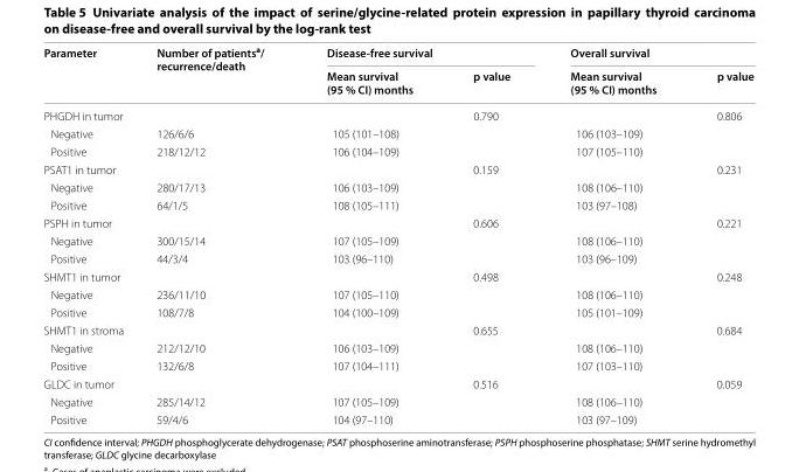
<table><thead><tr><td rowspan="2">Parameter</td><td rowspan="2">Number of patients<sup>a</sup>/ recurrence/death</td><td colspan="2">Disease‑free survival</td><td colspan="2">Overall survival</td></tr><tr><td>Mean survival (95 % CI) months</td><td>p value</td><td>Mean survival (95 % CI) months</td><td>p value</td></tr></thead><tbody><tr><td colspan="3">PHGDH in tumor</td><td>0.790</td><td></td><td>0.806</td></tr><tr><td>Negative</td><td>126/6/6</td><td>105 (101–108)</td><td></td><td>106 (103–109)</td><td></td></tr><tr><td>Positive</td><td>218/12/12</td><td>106 (104–109)</td><td></td><td>107 (105–110)</td><td></td></tr><tr><td colspan="3">PSAT1 in tumor</td><td>0.159</td><td></td><td>0.231</td></tr><tr><td>Negative</td><td>280/17/13</td><td>106 (103–109)</td><td></td><td>108 (106–110)</td><td></td></tr><tr><td>Positive</td><td>64/1/5</td><td>108 (105–111)</td><td></td><td>103 (97–108)</td><td></td></tr><tr><td colspan="3">PSPH in tumor</td><td>0.606</td><td></td><td>0.221</td></tr><tr><td>Negative</td><td>300/15/14</td><td>107 (105–109)</td><td></td><td>108 (106–110)</td><td></td></tr><tr><td>Positive</td><td>44/3/4</td><td>103 (96–110)</td><td></td><td>103 (96–109)</td><td></td></tr><tr><td colspan="3">SHMT1 in tumor</td><td>0.498</td><td></td><td>0.248</td></tr><tr><td>Negative</td><td>236/11/10</td><td>107 (105–110)</td><td></td><td>108 (106–110)</td><td></td></tr><tr><td>Positive</td><td>108/7/8</td><td>104 (100–109)</td><td></td><td>105 (101–109)</td><td></td></tr><tr><td colspan="3">SHMT1 in stroma</td><td>0.655</td><td></td><td>0.684</td></tr><tr><td>Negative</td><td>212/12/10</td><td>106 (103–109)</td><td></td><td>108 (106–110)</td><td></td></tr><tr><td>Positive</td><td>132/6/8</td><td>107 (104–111)</td><td></td><td>107 (103–110)</td><td></td></tr><tr><td colspan="3">GLDC in tumor</td><td>0.516</td><td></td><td>0.059</td></tr><tr><td>Negative</td><td>285/14/12</td><td>107 (105–109)</td><td></td><td>108 (106–110)</td><td></td></tr><tr><td>Positive</td><td>59/4/6</td><td>104 (97–110)</td><td></td><td>103 (97–109)</td><td></td></tr></tbody></table>